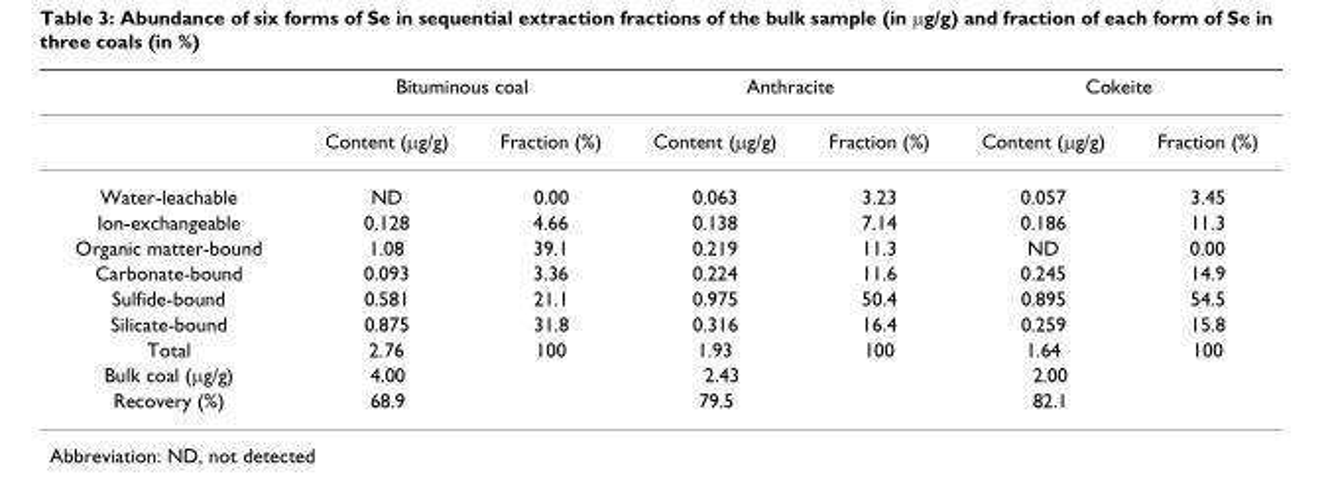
<table><thead><tr><td rowspan="2"></td><td colspan="2">Bituminous coal</td><td colspan="2">Anthracite</td><td colspan="2">Cokeite</td></tr><tr><td>Content (µg/g)</td><td>Fraction (%)</td><td>Content (µg/g)</td><td>Fraction (%)</td><td>Content (µg/g)</td><td>Fraction (%)</td></tr></thead><tbody><tr><td>Water-leachable</td><td>ND</td><td>0.00</td><td>0.063</td><td>3.23</td><td>0.057</td><td>3.45</td></tr><tr><td>Ion-exchangeable</td><td>0.128</td><td>4.66</td><td>0.138</td><td>7.14</td><td>0.186</td><td>11.3</td></tr><tr><td>Organic matter-bound</td><td>1.08</td><td>39.1</td><td>0.219</td><td>11.3</td><td>ND</td><td>0.00</td></tr><tr><td>Carbonate-bound</td><td>0.093</td><td>3.36</td><td>0.224</td><td>11.6</td><td>0.245</td><td>14.9</td></tr><tr><td>Sulfide-bound</td><td>0.581</td><td>21.1</td><td>0.975</td><td>50.4</td><td>0.895</td><td>54.5</td></tr><tr><td>Silicate-bound</td><td>0.875</td><td>31.8</td><td>0.316</td><td>16.4</td><td>0.259</td><td>15.8</td></tr><tr><td>Total</td><td>2.76</td><td>100</td><td>1.93</td><td>100</td><td>1.64</td><td>100</td></tr><tr><td>Bulk coal (µg/g)</td><td colspan="2">4.00</td><td colspan="2">2.43</td><td colspan="2">2.00</td></tr><tr><td>Recovery (%)</td><td colspan="2">68.9</td><td colspan="2">79.5</td><td colspan="2">82.1</td></tr></tbody></table>